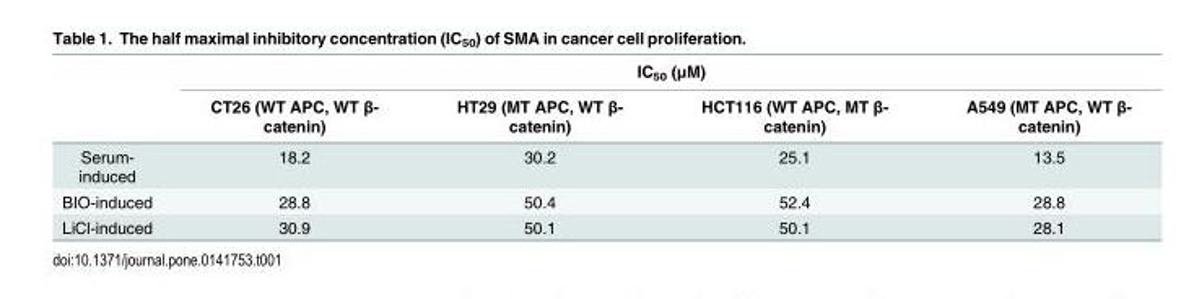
<table><thead><tr><td rowspan="2"></td><td colspan="4">IC<sub>50</sub> (μM)</td></tr><tr><td>CT26 (WT APC, WT β- catenin)</td><td>HT29 (MT APC, WT β- catenin)</td><td>HCT116 (WT APC, MT β- catenin)</td><td>A549 (MT APC, WT β- catenin)</td></tr></thead><tbody><tr><td>Serum- induced</td><td>18.2</td><td>30.2</td><td>25.1</td><td>13.5</td></tr><tr><td>BIO-induced</td><td>28.8</td><td>50.4</td><td>52.4</td><td>28.8</td></tr><tr><td>LiCl-induced</td><td>30.9</td><td>50.1</td><td>50.1</td><td>28.1</td></tr></tbody></table>